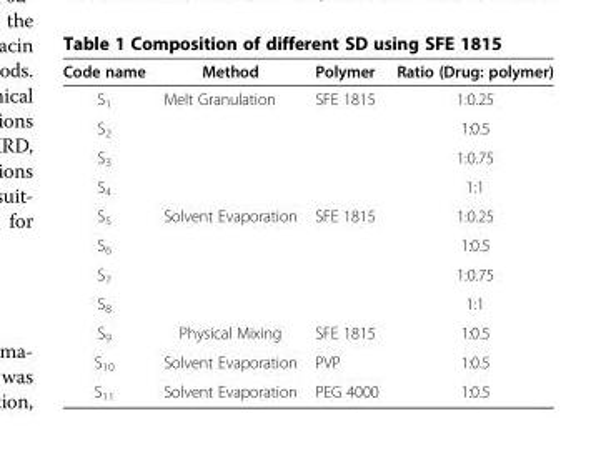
<table><thead><tr><td>Code name</td><td>Method</td><td>Polymer</td><td>Ratio (Drug: polymer)</td></tr></thead><tbody><tr><td>S<sub>1</sub></td><td rowspan="4">Melt Granulation</td><td rowspan="4">SFE 1815</td><td>1:0.25</td></tr><tr><td>S<sub>2</sub></td><td>1:0.5</td></tr><tr><td>S<sub>3</sub></td><td>1:0.75</td></tr><tr><td>S<sub>4</sub></td><td>1:1</td></tr><tr><td>S<sub>5</sub></td><td rowspan="4">Solvent Evaporation</td><td rowspan="4">SFE 1815</td><td>1:0.25</td></tr><tr><td>S<sub>6</sub></td><td>1:0.5</td></tr><tr><td>S<sub>7</sub></td><td>1:0.75</td></tr><tr><td>S<sub>8</sub></td><td>1:1</td></tr><tr><td>S<sub>9</sub></td><td>Physical Mixing</td><td>SFE 1815</td><td>1:0.5</td></tr><tr><td>S<sub>10</sub></td><td>Solvent Evaporation</td><td>PVP</td><td>1:0.5</td></tr><tr><td>S<sub>11</sub></td><td>Solvent Evaporation</td><td>PEG 4000</td><td>1:0.5</td></tr></tbody></table>